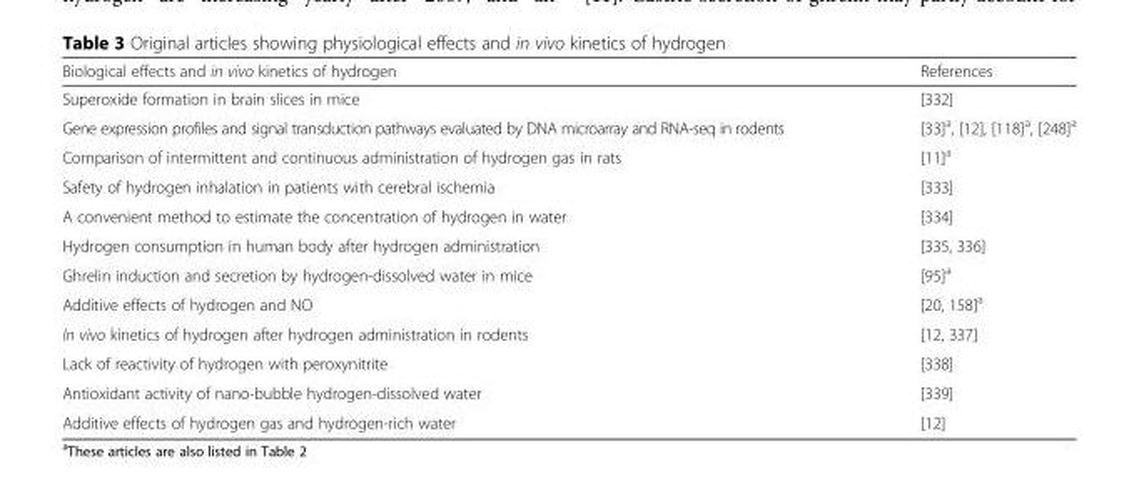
<table><thead><tr><td>Biological effects and in vivo kinetics of hydrogen</td><td>References</td></tr></thead><tbody><tr><td>Superoxide formation in brain slices in mice</td><td>[332]</td></tr><tr><td>Gene expression profiles and signal transduction pathways evaluated by DNA microarray and RNA-seq in rodents</td><td>[33]<sup>a</sup>, [12], [118]<sup>a</sup>, [248]<sup>a</sup></td></tr><tr><td>Comparison of intermittent and continuous administration of hydrogen gas in rats</td><td>[11]<sup>a</sup></td></tr><tr><td>Safety of hydrogen inhalation in patients with cerebral ischemia</td><td>[333]</td></tr><tr><td>A convenient method to estimate the concentration of hydrogen in water</td><td>[334]</td></tr><tr><td>Hydrogen consumption in human body after hydrogen administration</td><td>[335, 336]</td></tr><tr><td>Ghrelin induction and secretion by hydrogen-dissolved water in mice</td><td>[95]<sup>a</sup></td></tr><tr><td>Additive effects of hydrogen and NO</td><td>[20, 158]<sup>a</sup></td></tr><tr><td>In vivo kinetics of hydrogen after hydrogen administration in rodents</td><td>[12, 337]</td></tr><tr><td>Lack of reactivity of hydrogen with peroxynitrite</td><td>[338]</td></tr><tr><td>Antioxidant activity of nano-bubble hydrogen-dissolved water</td><td>[339]</td></tr><tr><td>Additive effects of hydrogen gas and hydrogen-rich water</td><td>[12]</td></tr></tbody></table>